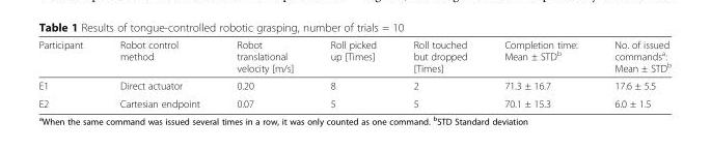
<table><thead><tr><td>Participant</td><td>Robot control method</td><td>Robot translational velocity [m/s]</td><td>Roll picked up [Times]</td><td>Roll touched but dropped [Times]</td><td>Completion time: Mean ± STD<sup>b</sup></td><td>No. of issued commands<sup>a</sup>: Mean ± STD<sup>b</sup></td></tr></thead><tbody><tr><td>E1</td><td>Direct actuator</td><td>0.20</td><td>8</td><td>2</td><td>71.3 ± 16.7</td><td>17.6 ± 5.5</td></tr><tr><td>E2</td><td>Cartesian endpoint</td><td>0.07</td><td>5</td><td>5</td><td>70.1 ± 15.3</td><td>6.0 ± 1.5</td></tr></tbody></table>